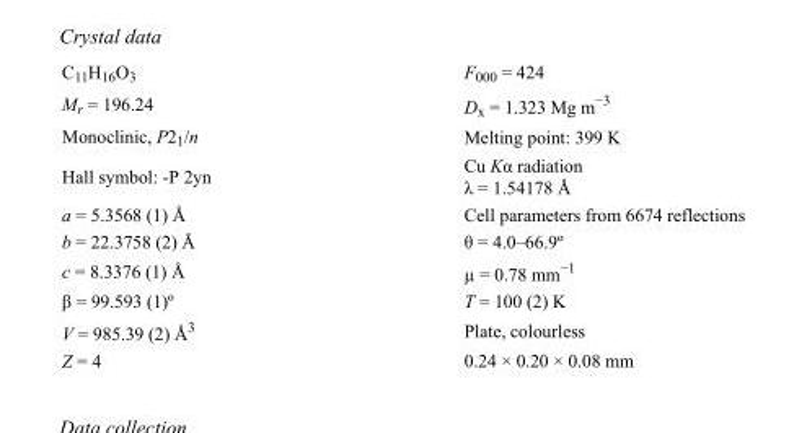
<table><tbody><tr><td>C<sub>11</sub>H<sub>16</sub>O<sub>3</sub></td><td>F000 = 424</td></tr><tr><td>M<sub>r</sub> = 196.24</td><td>D<sub>x</sub> = 1.323 Mg m<sup>−3</sup></td></tr><tr><td>Monoclinic, P2<sub>1</sub>/n</td><td>Melting point: 399 K</td></tr><tr><td>Hall symbol: -P 2yn</td><td>Cu Kα radiation λ = 1.54178 Å</td></tr><tr><td>a = 5.3568 (1) Å</td><td>Cell parameters from 6674 reflections</td></tr><tr><td>b = 22.3758 (2) Å</td><td>θ = 4.0–66.9º</td></tr><tr><td>c = 8.3376 (1) Å</td><td>µ = 0.78 mm<sup>−1</sup></td></tr><tr><td>β = 99.593 (1)º</td><td>T = 100 (2) K</td></tr><tr><td>V = 985.39 (2) Å<sup>3</sup></td><td>Plate, colourless</td></tr><tr><td>Z = 4</td><td>0.24 × 0.20 × 0.08 mm</td></tr></tbody></table>